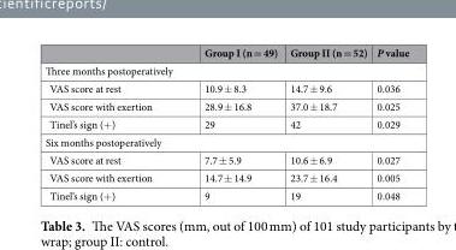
<table><thead><tr><td></td><td>Group I (n = 49)</td><td>Group II (n = 52)</td><td>P value</td></tr></thead><tbody><tr><td colspan="4">Three months postoperatively</td></tr><tr><td>VAS score at rest</td><td>10.9 ± 8.3</td><td>14.7 ± 9.6</td><td>0.036</td></tr><tr><td>VAS score with exertion</td><td>28.9 ± 16.8</td><td>37.0 ± 18.7</td><td>0.025</td></tr><tr><td>Tinel’s sign (+)</td><td>29</td><td>42</td><td>0.029</td></tr><tr><td colspan="4">Six months postoperatively</td></tr><tr><td>VAS score at rest</td><td>7.7 ± 5.9</td><td>10.6 ± 6.9</td><td>0.027</td></tr><tr><td>VAS score with exertion</td><td>14.7 ± 14.9</td><td>23.7 ± 16.4</td><td>0.005</td></tr><tr><td>Tinel’s sign (+)</td><td>9</td><td>19</td><td>0.048</td></tr></tbody></table>